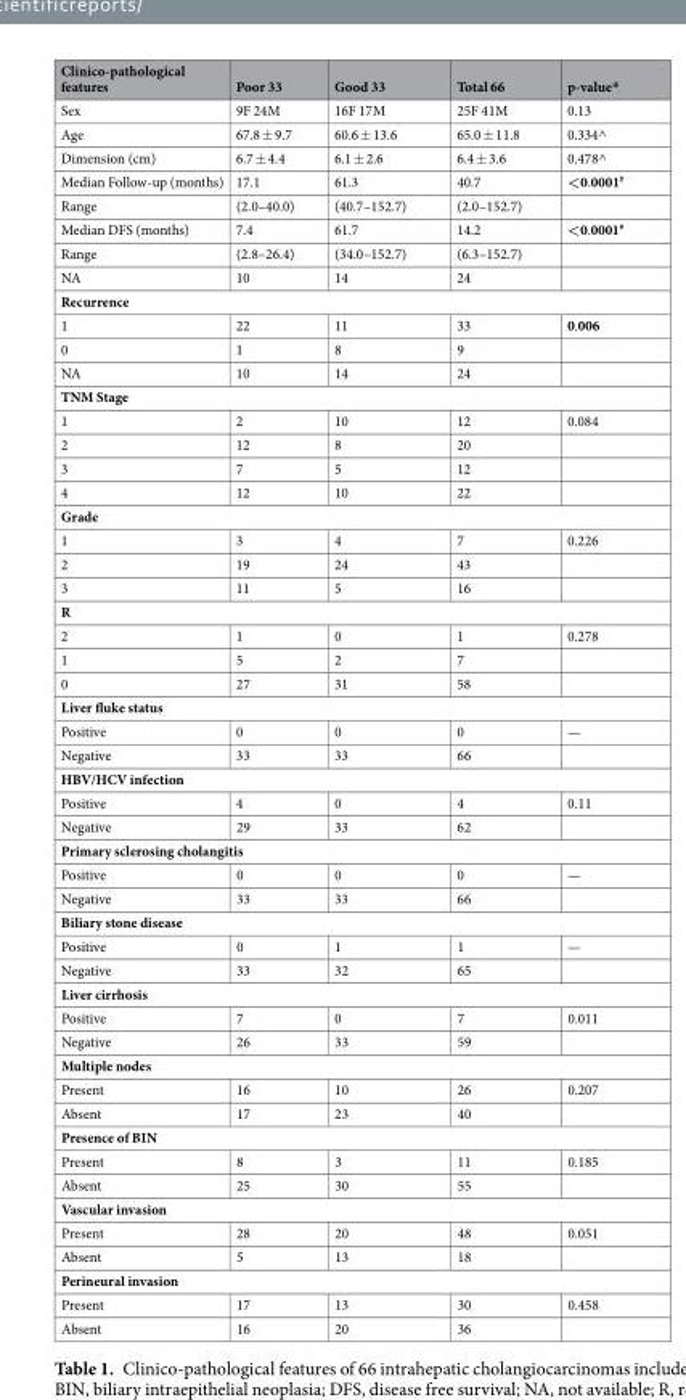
<table><thead><tr><td>Clinico-pathological features</td><td>Poor 33</td><td>Good 33</td><td>Total 66</td><td>p-value*</td></tr></thead><tbody><tr><td>Sex</td><td>9F 24M</td><td>16F 17M</td><td>25F 41M</td><td>0.13</td></tr><tr><td>Age</td><td>67.8 ± 9.7</td><td>60.6 ± 13.6</td><td>65.0 ± 11.8</td><td>0.334^</td></tr><tr><td>Dimension (cm)</td><td>6.7 ± 4.4</td><td>6.1 ± 2.6</td><td>6.4 ± 3.6</td><td>0.478^</td></tr><tr><td>Median Follow-up (months)</td><td>17.1</td><td>61.3</td><td>40.7</td><td>&lt;0.0001<sup>#</sup></td></tr><tr><td>Range</td><td>(2.0–40.0)</td><td>(40.7–152.7)</td><td>(2.0–152.7)</td><td></td></tr><tr><td>Median DFS (months)</td><td>7.4</td><td>61.7</td><td>14.2</td><td>&lt;0.0001<sup>#</sup></td></tr><tr><td>Range</td><td>(2.8–26.4)</td><td>(34.0–152.7)</td><td>(6.3–152.7)</td><td></td></tr><tr><td>NA</td><td>10</td><td>14</td><td>24</td><td></td></tr><tr><td colspan="5">Recurrence</td></tr><tr><td>1</td><td>22</td><td>11</td><td>33</td><td>0.006</td></tr><tr><td>0</td><td>1</td><td>8</td><td>9</td><td></td></tr><tr><td>NA</td><td>10</td><td>14</td><td>24</td><td></td></tr><tr><td colspan="5">TNM Stage</td></tr><tr><td>1</td><td>2</td><td>10</td><td>12</td><td>0.084</td></tr><tr><td>2</td><td>12</td><td>8</td><td>20</td><td></td></tr><tr><td>3</td><td>7</td><td>5</td><td>12</td><td></td></tr><tr><td>4</td><td>12</td><td>10</td><td>22</td><td></td></tr><tr><td colspan="5">Grade</td></tr><tr><td>1</td><td>3</td><td>4</td><td>7</td><td>0.226</td></tr><tr><td>2</td><td>19</td><td>24</td><td>43</td><td></td></tr><tr><td>3</td><td>11</td><td>5</td><td>16</td><td></td></tr><tr><td colspan="5">R</td></tr><tr><td>2</td><td>1</td><td>0</td><td>1</td><td>0.278</td></tr><tr><td>1</td><td>5</td><td>2</td><td>7</td><td></td></tr><tr><td>0</td><td>27</td><td>31</td><td>58</td><td></td></tr><tr><td colspan="5">Liver fluke status</td></tr><tr><td>Positive</td><td>0</td><td>0</td><td>0</td><td>—</td></tr><tr><td>Negative</td><td>33</td><td>33</td><td>66</td><td></td></tr><tr><td colspan="5">HBV/HCV infection</td></tr><tr><td>Positive</td><td>4</td><td>0</td><td>4</td><td>0.11</td></tr><tr><td>Negative</td><td>29</td><td>33</td><td>62</td><td></td></tr><tr><td colspan="5">Primary sclerosing cholangitis</td></tr><tr><td>Positive</td><td>0</td><td>0</td><td>0</td><td>—</td></tr><tr><td>Negative</td><td>33</td><td>33</td><td>66</td><td></td></tr><tr><td colspan="5">Biliary stone disease</td></tr><tr><td>Positive</td><td>0</td><td>1</td><td>1</td><td>—</td></tr><tr><td>Negative</td><td>33</td><td>32</td><td>65</td><td></td></tr><tr><td colspan="5">Liver cirrhosis</td></tr><tr><td>Positive</td><td>7</td><td>0</td><td>7</td><td>0.011</td></tr><tr><td>Negative</td><td>26</td><td>33</td><td>59</td><td></td></tr><tr><td colspan="5">Multiple nodes</td></tr><tr><td>Present</td><td>16</td><td>10</td><td>26</td><td>0.207</td></tr><tr><td>Absent</td><td>17</td><td>23</td><td>40</td><td></td></tr><tr><td colspan="5">Presence of BIN</td></tr><tr><td>Present</td><td>8</td><td>3</td><td>11</td><td>0.185</td></tr><tr><td>Absent</td><td>25</td><td>30</td><td>55</td><td></td></tr><tr><td colspan="5">Vascular invasion</td></tr><tr><td>Present</td><td>28</td><td>20</td><td>48</td><td>0.051</td></tr><tr><td>Absent</td><td>5</td><td>13</td><td>18</td><td></td></tr><tr><td colspan="5">Perineural invasion</td></tr><tr><td>Present</td><td>17</td><td>13</td><td>30</td><td>0.458</td></tr><tr><td>Absent</td><td>16</td><td>20</td><td>36</td><td></td></tr></tbody></table>